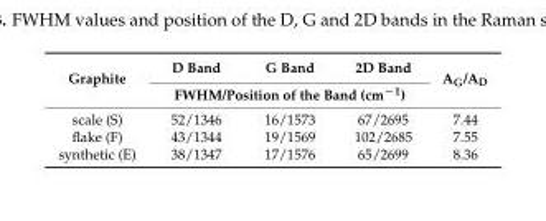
<table><thead><tr><td rowspan="2">Graphite</td><td>D Band</td><td>G Band</td><td>2D Band</td><td rowspan="2">A<sub>G</sub>/A<sub>D</sub></td></tr><tr><td colspan="3">FWHM/Position of the Band (cm<sup>−1</sup>)</td></tr></thead><tbody><tr><td>scale (S)</td><td>52/1346</td><td>16/1573</td><td>67/2695</td><td>7.44</td></tr><tr><td>flake (F)</td><td>43/1344</td><td>19/1569</td><td>102/2685</td><td>7.55</td></tr><tr><td>synthetic (E)</td><td>38/1347</td><td>17/1576</td><td>65/2699</td><td>8.36</td></tr></tbody></table>